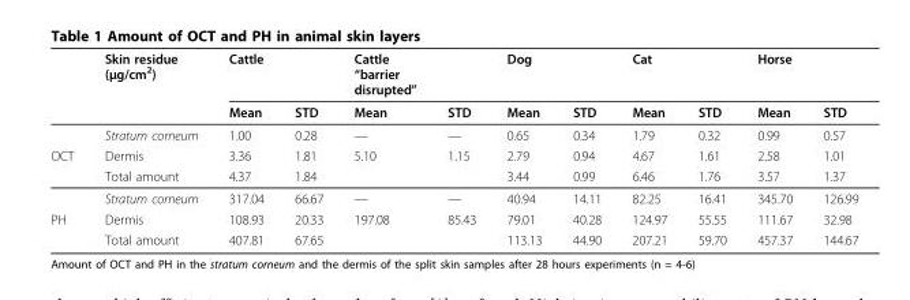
<table><thead><tr><td rowspan="2"></td><td rowspan="2">Skin residue (μg/cm<sup>2</sup>)</td><td rowspan="2">Cattle Mean</td><td rowspan="2">STD</td><td rowspan="2">Cattle “barrier disrupted” Mean</td><td rowspan="2">STD</td><td rowspan="2">Dog Mean</td><td rowspan="2">STD</td><td rowspan="2">Cat Mean</td><td rowspan="2">STD</td><td rowspan="2">Horse Mean</td><td rowspan="2">STD</td></tr><tr></tr></thead><tbody><tr><td></td><td>Stratum corneum</td><td>1.00</td><td>0.28</td><td>—</td><td>—</td><td>0.65</td><td>0.34</td><td>1.79</td><td>0.32</td><td>0.99</td><td>0.57</td></tr><tr><td rowspan="3">OCT</td><td>Dermis</td><td>3.36</td><td>1.81</td><td>5.10</td><td>1.15</td><td>2.79</td><td>0.94</td><td>4.67</td><td>1.61</td><td>2.58</td><td>1.01</td></tr><tr><td>Total amount</td><td>4.37</td><td>1.84</td><td></td><td></td><td>3.44</td><td>0.99</td><td>6.46</td><td>1.76</td><td>3.57</td><td>1.37</td></tr><tr><td>Stratum corneum</td><td>317.04</td><td>66.67</td><td>—</td><td>—</td><td>40.94</td><td>14.11</td><td>82.25</td><td>16.41</td><td>345.70</td><td>126.99</td></tr><tr><td rowspan="2">PH</td><td>Dermis</td><td>108.93</td><td>20.33</td><td>197.08</td><td>85.43</td><td>79.01</td><td>40.28</td><td>124.97</td><td>55.55</td><td>111.67</td><td>32.98</td></tr><tr><td>Total amount</td><td>407.81</td><td>67.65</td><td></td><td></td><td>113.13</td><td>44.90</td><td>207.21</td><td>59.70</td><td>457.37</td><td>144.67</td></tr></tbody></table>